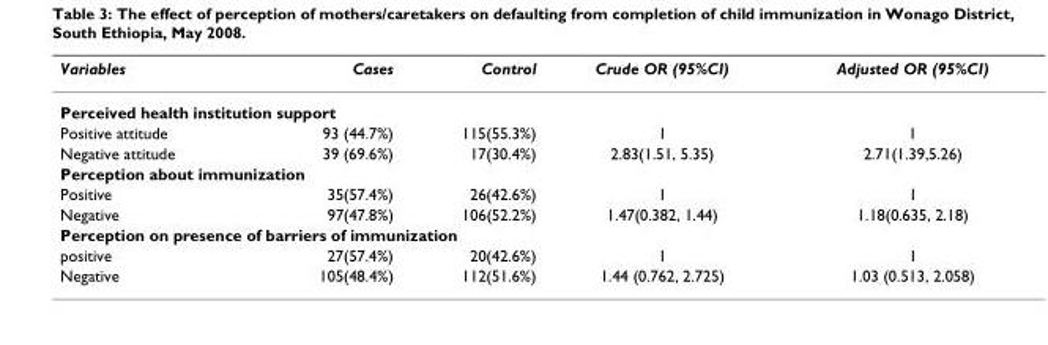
<table><thead><tr><td>Variables</td><td>Cases</td><td>Control</td><td>Crude OR (95%CI)</td><td>Adjusted OR (95%CI)</td></tr></thead><tbody><tr><td colspan="5">Perceived health institution support</td></tr><tr><td>Positive attitude</td><td>93 (44.7%)</td><td>115(55.3%)</td><td>1</td><td>1</td></tr><tr><td>Negative attitude</td><td>39 (69.6%)</td><td>17(30.4%)</td><td>2.83(1.51, 5.35)</td><td>2.71(1.39,5.26)</td></tr><tr><td colspan="5">Perception about immunization</td></tr><tr><td>Positive</td><td>35(57.4%)</td><td>26(42.6%)</td><td>1</td><td>1</td></tr><tr><td>Negative</td><td>97(47.8%)</td><td>106(52.2%)</td><td>1.47(0.382, 1.44)</td><td>1.18(0.635, 2.18)</td></tr><tr><td colspan="5">Perception on presence of barriers of immunization</td></tr><tr><td>positive</td><td>27(57.4%)</td><td>20(42.6%)</td><td>1</td><td>1</td></tr><tr><td>Negative</td><td>105(48.4%)</td><td>112(51.6%)</td><td>1.44 (0.762, 2.725)</td><td>1.03 (0.513, 2.058)</td></tr></tbody></table>